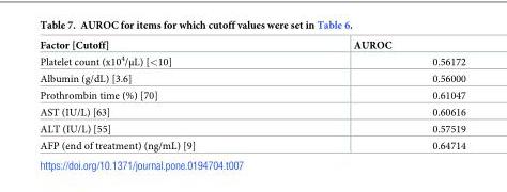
<table><thead><tr><td>Factor [Cutoff]</td><td>AUROC</td></tr></thead><tbody><tr><td>Platelet count (x10<sup>4</sup>/μL) [&lt;10]</td><td>0.56172</td></tr><tr><td>Albumin (g/dL) [3.6]</td><td>0.56000</td></tr><tr><td>Prothrombin time (%) [70]</td><td>0.61047</td></tr><tr><td>AST (IU/L) [63]</td><td>0.60616</td></tr><tr><td>ALT (IU/L) [55]</td><td>0.57519</td></tr><tr><td>AFP (end of treatment) (ng/mL) [9]</td><td>0.64714</td></tr></tbody></table>